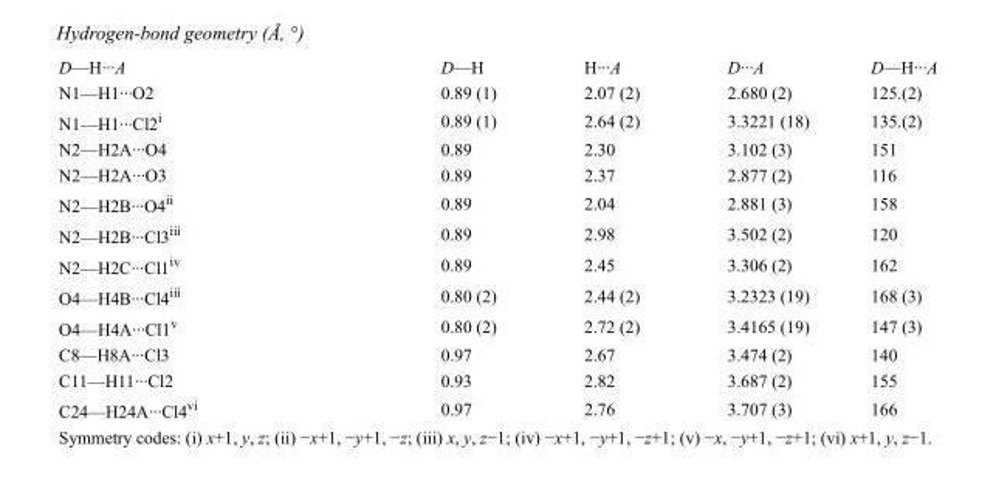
<table><tbody><tr><td>D—H···A</td><td>D—H</td><td>H···A</td><td>D···A</td><td>D—H···A</td></tr><tr><td>N1—H1···O2</td><td>0.89 (1)</td><td>2.07 (2)</td><td>2.680 (2)</td><td>125.(2)</td></tr><tr><td>N1—H1···Cl2<sup>i</sup></td><td>0.89 (1)</td><td>2.64 (2)</td><td>3.3221 (18)</td><td>135.(2)</td></tr><tr><td>N2—H2A···O4</td><td>0.89</td><td>2.30</td><td>3.102 (3)</td><td>151</td></tr><tr><td>N2—H2A···O3</td><td>0.89</td><td>2.37</td><td>2.877 (2)</td><td>116</td></tr><tr><td>N2—H2B···O4<sup>ii</sup></td><td>0.89</td><td>2.04</td><td>2.881 (3)</td><td>158</td></tr><tr><td>N2—H2B···Cl3<sup>iii</sup></td><td>0.89</td><td>2.98</td><td>3.502 (2)</td><td>120</td></tr><tr><td>N2—H2C···Cl1<sup>iv</sup></td><td>0.89</td><td>2.45</td><td>3.306 (2)</td><td>162</td></tr><tr><td>O4—H4B···Cl4<sup>iii</sup></td><td>0.80 (2)</td><td>2.44 (2)</td><td>3.2323 (19)</td><td>168 (3)</td></tr><tr><td>O4—H4A···Cl1<sup>v</sup></td><td>0.80 (2)</td><td>2.72 (2)</td><td>3.4165 (19)</td><td>147 (3)</td></tr><tr><td>C8—H8A···Cl3</td><td>0.97</td><td>2.67</td><td>3.474 (2)</td><td>140</td></tr><tr><td>C11—H11···Cl2</td><td>0.93</td><td>2.82</td><td>3.687 (2)</td><td>155</td></tr><tr><td>C24—H24A···Cl4<sup>vi</sup></td><td>0.97</td><td>2.76</td><td>3.707 (3)</td><td>166</td></tr></tbody></table>